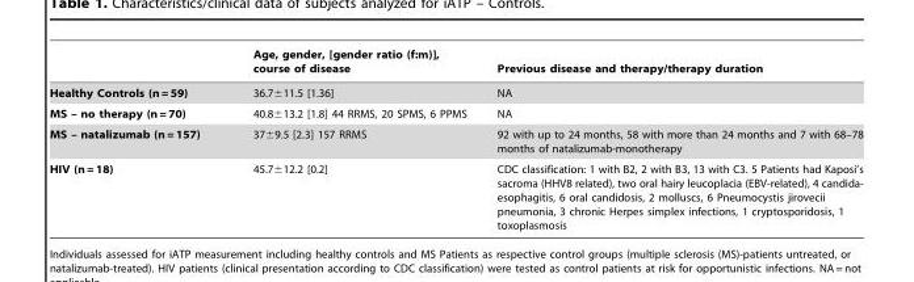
<table><thead><tr><td></td><td>Age, gender, [gender ratio (f:m)], course of disease</td><td>Previous disease and therapy/therapy duration</td></tr></thead><tbody><tr><td>Healthy Controls (n = 59)</td><td>36.7±11.5 [1.36]</td><td>NA</td></tr><tr><td>MS – no therapy (n = 70)</td><td>40.8±13.2 [1.8] 44 RRMS, 20 SPMS, 6 PPMS</td><td>NA</td></tr><tr><td>MS – natalizumab (n = 157)</td><td>37±9.5 [2.3] 157 RRMS</td><td>92 with up to 24 months, 58 with more than 24 months and 7 with 68–78 months of natalizumab-monotherapy</td></tr><tr><td>HIV (n = 18)</td><td>45.7±12.2 [0.2]</td><td>CDC classification: 1 with B2, 2 with B3, 13 with C3. 5 Patients had Kaposi’s sacroma (HHV8 related), two oral hairy leucoplacia (EBV-related), 4 candida- esophagitis, 6 oral candidosis, 2 molluscs, 6 Pneumocystis jirovecii pneumonia, 3 chronic Herpes simplex infections, 1 cryptosporidosis, 1 toxoplasmosis</td></tr></tbody></table>